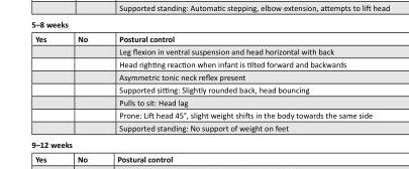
<table><thead><tr><td>Yes</td><td>No</td><td>Postural control</td></tr></thead><tbody><tr><td></td><td></td><td>Leg flexion in ventral suspension and head horizontal with back</td></tr><tr><td></td><td></td><td>Head righting reaction when infant is tilted forward and backwards</td></tr><tr><td></td><td></td><td>Asymmetric tonic neck reflex present</td></tr><tr><td></td><td></td><td>Supported sitting: Slightly rounded back, head bouncing</td></tr><tr><td></td><td></td><td>Pulls to sit: Head lag</td></tr><tr><td></td><td></td><td>Prone: Lift head 45°, slight weight shifts in the body towards the same side</td></tr><tr><td></td><td></td><td>Supported standing: No support of weight on feet</td></tr></tbody></table>